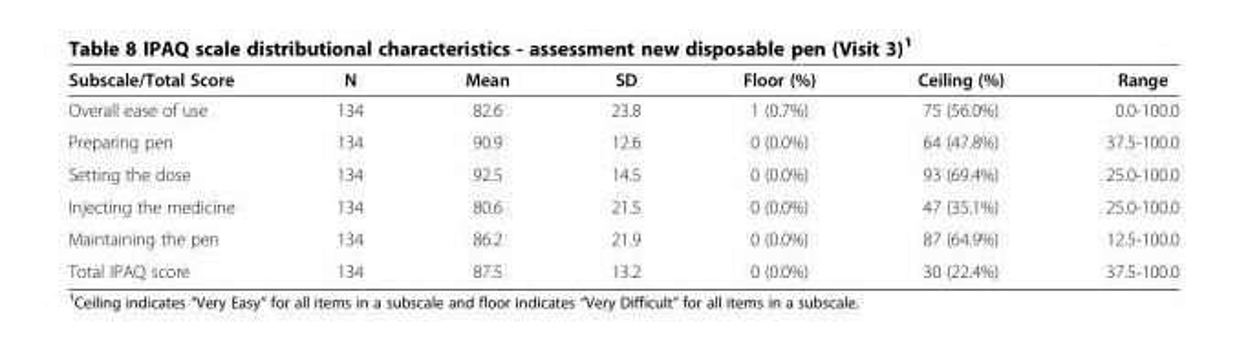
<table><thead><tr><td>Subscale/Total Score</td><td>N</td><td>Mean</td><td>SD</td><td>Floor (%)</td><td>Ceiling (%)</td><td>Range</td></tr></thead><tbody><tr><td>Overall ease of use</td><td>134</td><td>82.6</td><td>23.8</td><td>1 (0.7%)</td><td>75 (56.0%)</td><td>0.0-100.0</td></tr><tr><td>Preparing pen</td><td>134</td><td>90.9</td><td>12.6</td><td>0 (0.0%)</td><td>64 (47.8%)</td><td>37.5-100.0</td></tr><tr><td>Setting the dose</td><td>134</td><td>92.5</td><td>14.5</td><td>0 (0.0%)</td><td>93 (69.4%)</td><td>25.0-100.0</td></tr><tr><td>Injecting the medicine</td><td>134</td><td>80.6</td><td>21.5</td><td>0 (0.0%)</td><td>47 (35.1%)</td><td>25.0-100.0</td></tr><tr><td>Maintaining the pen</td><td>134</td><td>86.2</td><td>21.9</td><td>0 (0.0%)</td><td>87 (64.9%)</td><td>12.5-100.0</td></tr><tr><td>Total IPAQ score</td><td>134</td><td>87.5</td><td>13.2</td><td>0 (0.0%)</td><td>30 (22.4%)</td><td>37.5-100.0</td></tr></tbody></table>